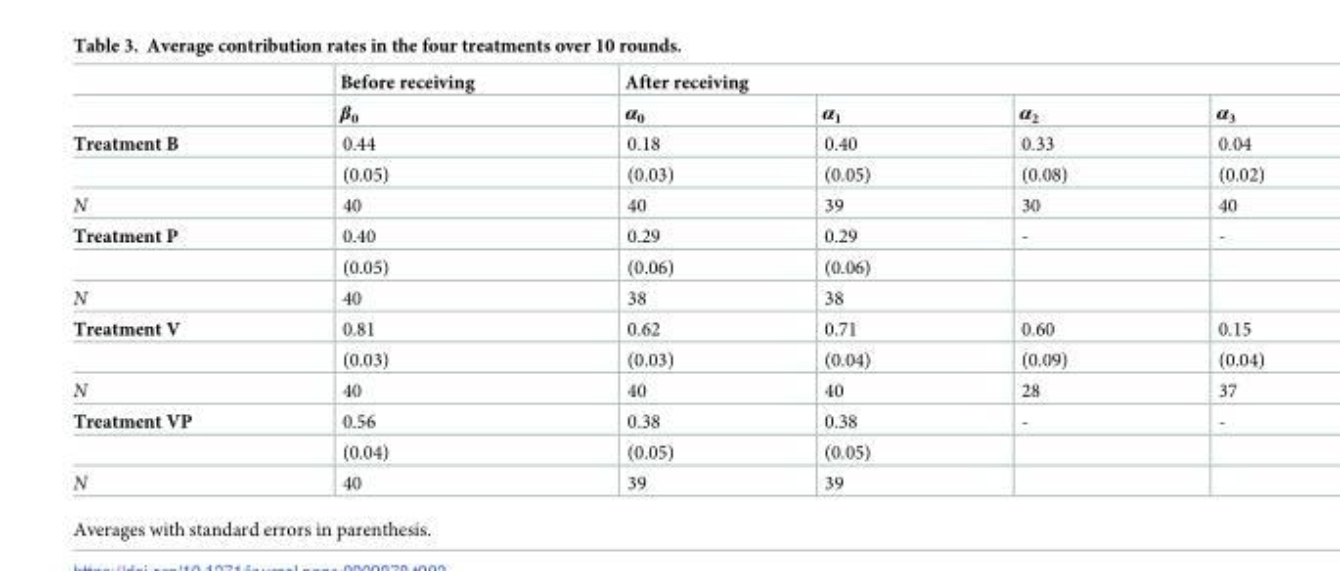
<table><thead><tr><td rowspan="2"></td><td rowspan="2">Before receiving β<sub>0</sub></td><td colspan="4">After receiving</td></tr><tr><td>α<sub>0</sub></td><td>α<sub>1</sub></td><td>α<sub>2</sub></td><td>α<sub>3</sub></td></tr></thead><tbody><tr><td rowspan="2">Treatment B</td><td>0.44</td><td>0.18</td><td>0.40</td><td>0.33</td><td>0.04</td></tr><tr><td>(0.05)</td><td>(0.03)</td><td>(0.05)</td><td>(0.08)</td><td>(0.02)</td></tr><tr><td>N</td><td>40</td><td>40</td><td>39</td><td>30</td><td>40</td></tr><tr><td rowspan="2">Treatment P</td><td>0.40</td><td>0.29</td><td>0.29</td><td>-</td><td>-</td></tr><tr><td>(0.05)</td><td>(0.06)</td><td>(0.06)</td><td></td><td></td></tr><tr><td>N</td><td>40</td><td>38</td><td>38</td><td></td><td></td></tr><tr><td rowspan="2">Treatment V</td><td>0.81</td><td>0.62</td><td>0.71</td><td>0.60</td><td>0.15</td></tr><tr><td>(0.03)</td><td>(0.03)</td><td>(0.04)</td><td>(0.09)</td><td>(0.04)</td></tr><tr><td>N</td><td>40</td><td>40</td><td>40</td><td>28</td><td>37</td></tr><tr><td rowspan="2">Treatment VP</td><td>0.56</td><td>0.38</td><td>0.38</td><td>-</td><td>-</td></tr><tr><td>(0.04)</td><td>(0.05)</td><td>(0.05)</td><td></td><td></td></tr><tr><td>N</td><td>40</td><td>39</td><td>39</td><td></td><td></td></tr></tbody></table>